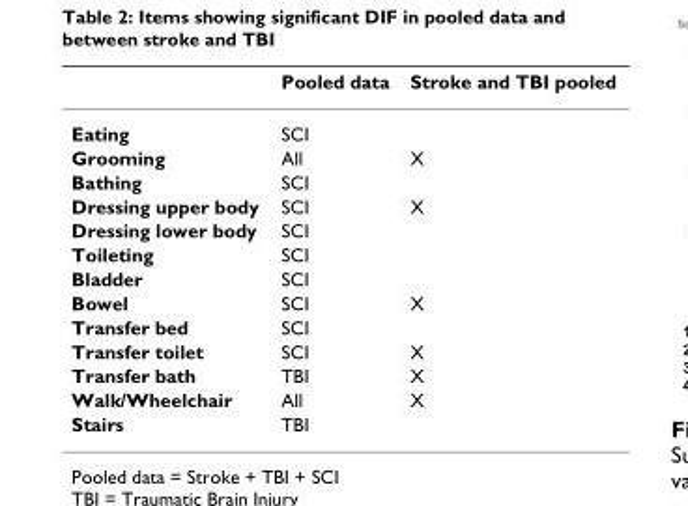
<table><thead><tr><td></td><td>Pooled data</td><td>Stroke and TBI pooled</td></tr></thead><tbody><tr><td>Eating</td><td>SCI</td><td></td></tr><tr><td>Grooming</td><td>All</td><td>X</td></tr><tr><td>Bathing</td><td>SCI</td><td></td></tr><tr><td>Dressing upper body</td><td>SCI</td><td>X</td></tr><tr><td>Dressing lower body</td><td>SCI</td><td></td></tr><tr><td>Toileting</td><td>SCI</td><td></td></tr><tr><td>Bladder</td><td>SCI</td><td></td></tr><tr><td>Bowel</td><td>SCI</td><td>X</td></tr><tr><td>Transfer bed</td><td>SCI</td><td></td></tr><tr><td>Transfer toilet</td><td>SCI</td><td>X</td></tr><tr><td>Transfer bath</td><td>TBI</td><td>X</td></tr><tr><td>Walk/Wheelchair</td><td>All</td><td>X</td></tr><tr><td>Stairs</td><td>TBI</td><td></td></tr></tbody></table>